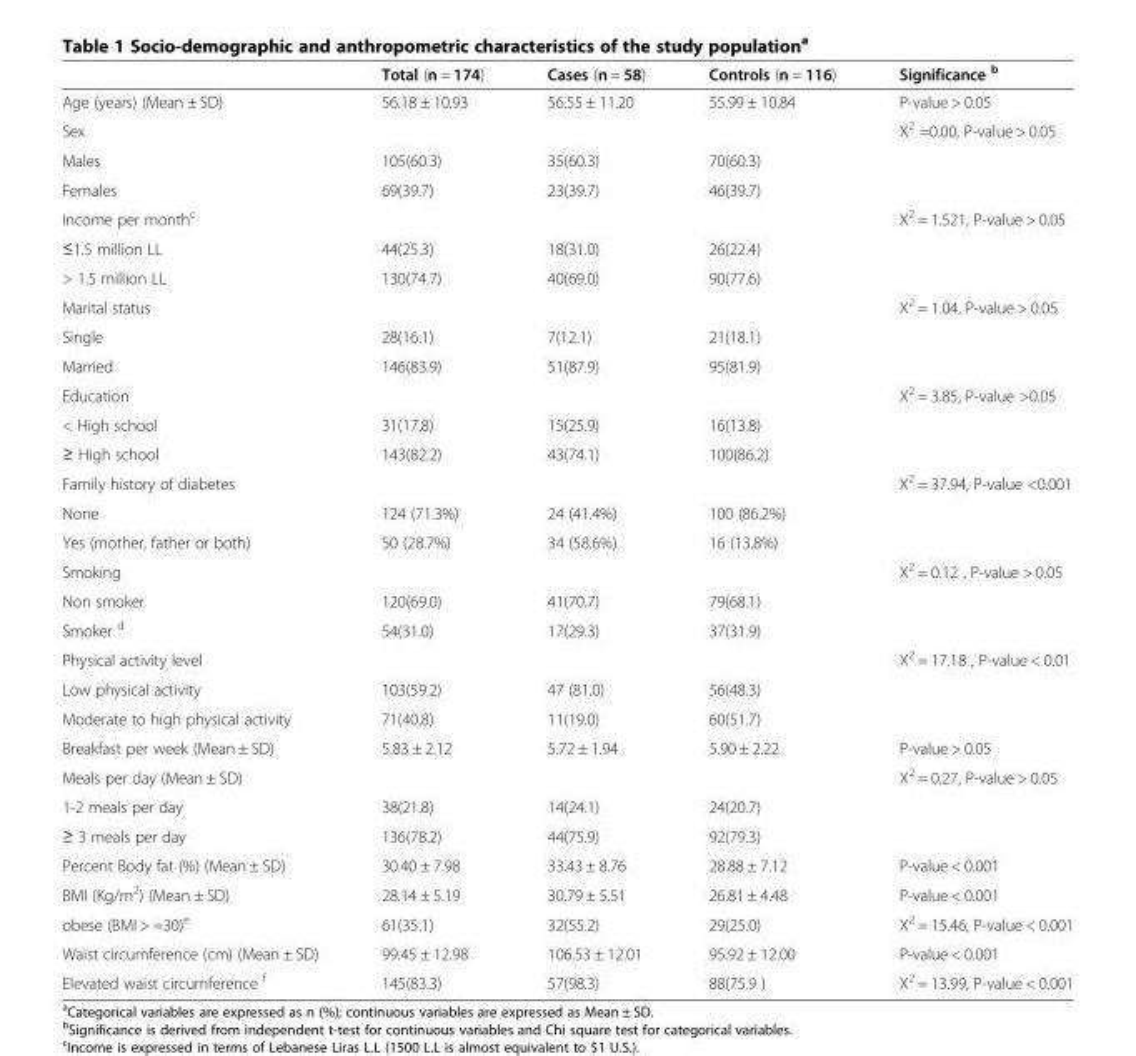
<table><thead><tr><td></td><td>Total (n = 174)</td><td>Cases (n = 58)</td><td>Controls (n = 116)</td><td>Significance <sup>b</sup></td></tr></thead><tbody><tr><td>Age (years) (Mean ± SD)</td><td>56.18 ± 10.93</td><td>56.55 ± 11.20</td><td>55.99 ± 10.84</td><td>P-value &gt; 0.05</td></tr><tr><td>Sex</td><td></td><td></td><td></td><td>X<sup>2</sup> =0.00, P-value &gt; 0.05</td></tr><tr><td>Males</td><td>105(60.3)</td><td>35(60.3)</td><td>70(60.3)</td><td></td></tr><tr><td>Females</td><td>69(39.7)</td><td>23(39.7)</td><td>46(39.7)</td><td></td></tr><tr><td>Income per month<sup>c</sup></td><td></td><td></td><td></td><td>X<sup>2</sup> = 1.521, P-value &gt; 0.05</td></tr><tr><td>≤1.5 million LL</td><td>44(25.3)</td><td>18(31.0)</td><td>26(22.4)</td><td></td></tr><tr><td>&gt; 1.5 million LL</td><td>130(74.7)</td><td>40(69.0)</td><td>90(77.6)</td><td></td></tr><tr><td>Marital status</td><td></td><td></td><td></td><td>X<sup>2</sup> = 1.04, P-value &gt; 0.05</td></tr><tr><td>Single</td><td>28(16.1)</td><td>7(12.1)</td><td>21(18.1)</td><td></td></tr><tr><td>Married</td><td>146(83.9)</td><td>51(87.9)</td><td>95(81.9)</td><td></td></tr><tr><td>Education</td><td></td><td></td><td></td><td>X<sup>2</sup> = 3.85, P-value &gt;0.05</td></tr><tr><td>&lt; High school</td><td>31(17.8)</td><td>15(25.9)</td><td>16(13.8)</td><td></td></tr><tr><td>≥ High school</td><td>143(82.2)</td><td>43(74.1)</td><td>100(86.2)</td><td></td></tr><tr><td>Family history of diabetes</td><td></td><td></td><td></td><td>X<sup>2</sup> = 37.94, P-value &lt;0.001</td></tr><tr><td>None</td><td>124 (71.3%)</td><td>24 (41.4%)</td><td>100 (86.2%)</td><td></td></tr><tr><td>Yes (mother, father or both)</td><td>50 (28.7%)</td><td>34 (58.6%)</td><td>16 (13.8%)</td><td></td></tr><tr><td>Smoking</td><td></td><td></td><td></td><td>X<sup>2</sup> = 0.12 , P-value &gt; 0.05</td></tr><tr><td>Non smoker</td><td>120(69.0)</td><td>41(70.7)</td><td>79(68.1)</td><td></td></tr><tr><td>Smoker <sup>d</sup></td><td>54(31.0)</td><td>17(29.3)</td><td>37(31.9)</td><td></td></tr><tr><td>Physical activity level</td><td></td><td></td><td></td><td>X<sup>2</sup> = 17.18 , P-value &lt; 0.01</td></tr><tr><td>Low physical activity</td><td>103(59.2)</td><td>47 (81.0)</td><td>56(48.3)</td><td></td></tr><tr><td>Moderate to high physical activity</td><td>71(40.8)</td><td>11(19.0)</td><td>60(51.7)</td><td></td></tr><tr><td>Breakfast per week (Mean ± SD)</td><td>5.83 ± 2.12</td><td>5.72 ± 1.94</td><td>5.90 ± 2.22</td><td>P-value &gt; 0.05</td></tr><tr><td>Meals per day (Mean ± SD)</td><td></td><td></td><td></td><td>X<sup>2</sup> = 0.27, P-value &gt; 0.05</td></tr><tr><td>1-2 meals per day</td><td>38(21.8)</td><td>14(24.1)</td><td>24(20.7)</td><td></td></tr><tr><td>≥ 3 meals per day</td><td>136(78.2)</td><td>44(75.9)</td><td>92(79.3)</td><td></td></tr><tr><td>Percent Body fat (%) (Mean ± SD)</td><td>30.40 ± 7.98</td><td>33.43 ± 8.76</td><td>28.88 ± 7.12</td><td>P-value &lt; 0.001</td></tr><tr><td>BMI (Kg/m<sup>2</sup>) (Mean ± SD)</td><td>28.14 ± 5.19</td><td>30.79 ± 5.51</td><td>26.81 ± 4.48</td><td>P-value &lt; 0.001</td></tr><tr><td>obese (BMI &gt; =30)<sup>e</sup></td><td>61(35.1)</td><td>32(55.2)</td><td>29(25.0)</td><td>X<sup>2</sup> = 15.46, P-value &lt; 0.001</td></tr><tr><td>Waist circumference (cm) (Mean ± SD)</td><td>99.45 ± 12.98</td><td>106.53 ± 12.01</td><td>95.92 ± 12.00</td><td>P-value &lt; 0.001</td></tr><tr><td>Elevated waist circumference <sup>f</sup></td><td>145(83.3)</td><td>57(98.3)</td><td>88(75.9 )</td><td>X<sup>2</sup> = 13.99, P-value &lt; 0.001</td></tr></tbody></table>